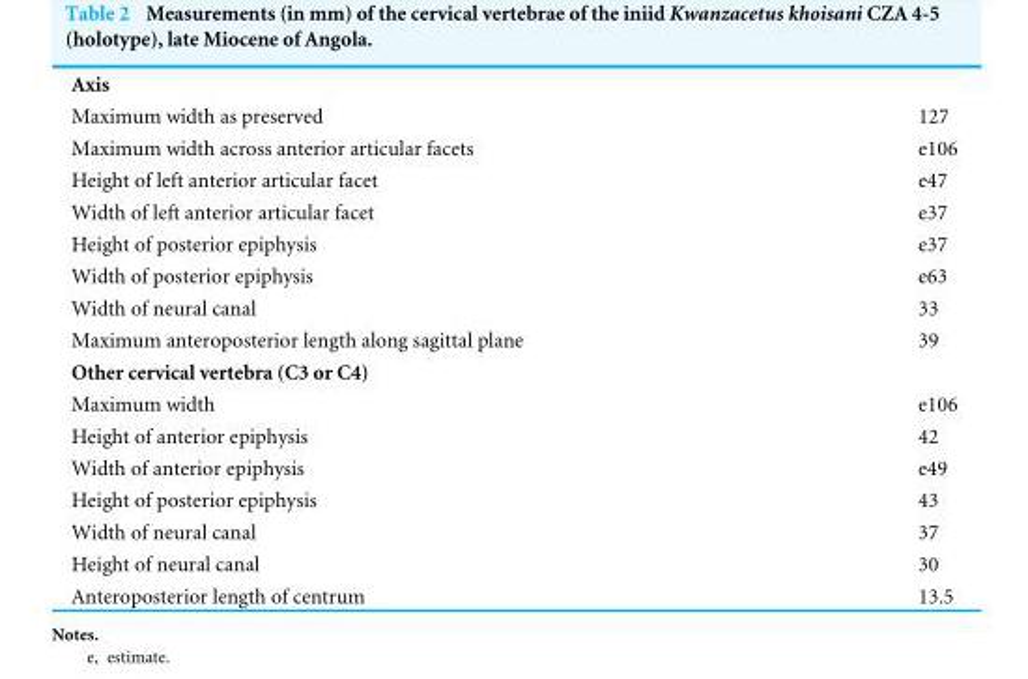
<table><tbody><tr><td colspan="2">Axis</td></tr><tr><td>Maximum width as preserved</td><td>127</td></tr><tr><td>Maximum width across anterior articular facets</td><td>e106</td></tr><tr><td>Height of left anterior articular facet</td><td>e47</td></tr><tr><td>Width of left anterior articular facet</td><td>e37</td></tr><tr><td>Height of posterior epiphysis</td><td>e37</td></tr><tr><td>Width of posterior epiphysis</td><td>e63</td></tr><tr><td>Width of neural canal</td><td>33</td></tr><tr><td>Maximum anteroposterior length along sagittal plane</td><td>39</td></tr><tr><td colspan="2">Other cervical vertebra (C3 or C4)</td></tr><tr><td>Maximum width</td><td>e106</td></tr><tr><td>Height of anterior epiphysis</td><td>42</td></tr><tr><td>Width of anterior epiphysis</td><td>e49</td></tr><tr><td>Height of posterior epiphysis</td><td>43</td></tr><tr><td>Width of neural canal</td><td>37</td></tr><tr><td>Height of neural canal</td><td>30</td></tr><tr><td>Anteroposterior length of centrum</td><td>13.5</td></tr></tbody></table>